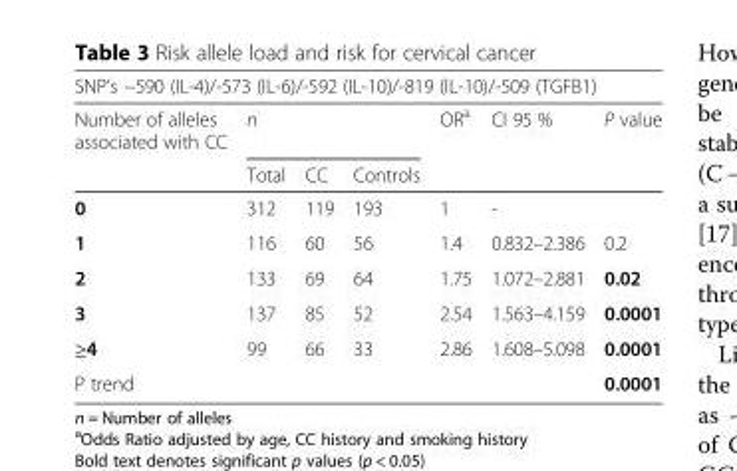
<table><thead><tr><td colspan="7">SNP’s −590 (IL-4)/-573 (IL-6)/-592 (IL-10)/-819 (IL-10)/-509 (TGFB1)</td></tr><tr><td rowspan="2">Number of alleles associated with CC</td><td colspan="3">n</td><td rowspan="2">OR<sup>a</sup></td><td rowspan="2">CI 95 %</td><td rowspan="2">P value</td></tr><tr><td>Total</td><td>CC</td><td>Controls</td></tr></thead><tbody><tr><td>0</td><td>312</td><td>119</td><td>193</td><td>1</td><td>-</td><td></td></tr><tr><td>1</td><td>116</td><td>60</td><td>56</td><td>1.4</td><td>0.832–2.386</td><td>0.2</td></tr><tr><td>2</td><td>133</td><td>69</td><td>64</td><td>1.75</td><td>1.072–2.881</td><td>0.02</td></tr><tr><td>3</td><td>137</td><td>85</td><td>52</td><td>2.54</td><td>1.563–4.159</td><td>0.0001</td></tr><tr><td>≥4</td><td>99</td><td>66</td><td>33</td><td>2.86</td><td>1.608–5.098</td><td>0.0001</td></tr><tr><td colspan="6">P trend</td><td>0.0001</td></tr></tbody></table>